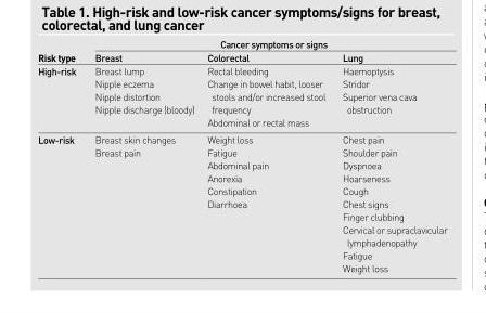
<table><thead><tr><td rowspan="2">Risk type</td><td colspan="3">Cancer symptoms or signs</td></tr><tr><td>Breast</td><td>Colorectal</td><td>Lung</td></tr></thead><tbody><tr><td>High-risk</td><td>Breast lump Nipple eczema Nipple distortion Nipple discharge (bloody)</td><td>Rectal bleeding Change in bowel habit, looser stools and/or increased stool frequency Abdominal or rectal mass</td><td>Haemoptysis Stridor Superior vena cava obstruction</td></tr><tr><td rowspan="10">Low-risk</td><td>Breast skin changes</td><td>Weight loss</td><td>Chest pain</td></tr><tr><td rowspan="9">Breast pain</td><td>Fatigue</td><td>Shoulder pain</td></tr><tr><td>Abdominal pain</td><td>Dyspnoea</td></tr><tr><td>Anorexia</td><td>Hoarseness</td></tr><tr><td>Constipation</td><td>Cough</td></tr><tr><td rowspan="5">Diarrhoea</td><td>Chest signs</td></tr><tr><td>Finger clubbing</td></tr><tr><td>Cervical or supraclavicular lymphadenopathy</td></tr><tr><td>Fatigue</td></tr><tr><td>Weight loss</td></tr></tbody></table>